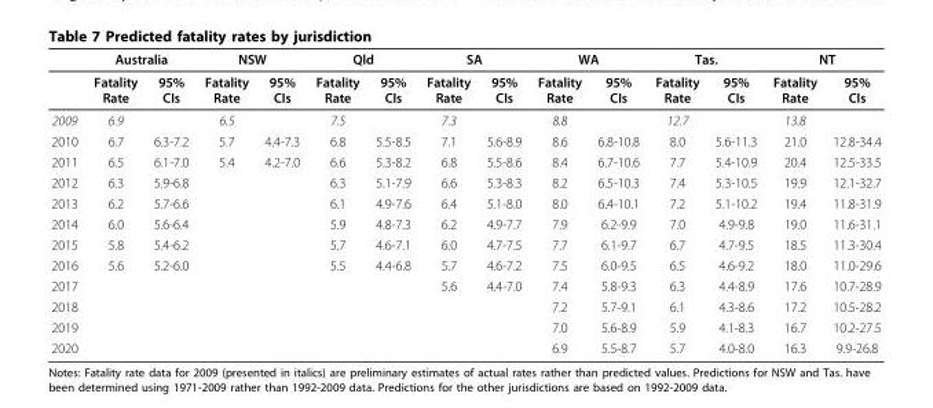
<table><thead><tr><td rowspan="2"></td><td colspan="2">Australia</td><td colspan="2">NSW</td><td colspan="2">Qld</td><td colspan="2">SA</td><td colspan="2">WA</td><td colspan="2">Tas.</td><td colspan="2">NT</td></tr><tr><td>Fatality Rate</td><td>95% CIs</td><td>Fatality Rate</td><td>95% CIs</td><td>Fatality Rate</td><td>95% CIs</td><td>Fatality Rate</td><td>95% CIs</td><td>Fatality Rate</td><td>95% CIs</td><td>Fatality Rate</td><td>95% CIs</td><td>Fatality Rate</td><td>95% CIs</td></tr></thead><tbody><tr><td>2009</td><td>6.9</td><td></td><td>6.5</td><td></td><td>7.5</td><td></td><td>7.3</td><td></td><td>8.8</td><td></td><td>12.7</td><td></td><td>13.8</td><td></td></tr><tr><td>2010</td><td>6.7</td><td>6.3-7.2</td><td>5.7</td><td>4.4-7.3</td><td>6.8</td><td>5.5-8.5</td><td>7.1</td><td>5.6-8.9</td><td>8.6</td><td>6.8-10.8</td><td>8.0</td><td>5.6-11.3</td><td>21.0</td><td>12.8-34.4</td></tr><tr><td>2011</td><td>6.5</td><td>6.1-7.0</td><td>5.4</td><td>4.2-7.0</td><td>6.6</td><td>5.3-8.2</td><td>6.8</td><td>5.5-8.6</td><td>8.4</td><td>6.7-10.6</td><td>7.7</td><td>5.4-10.9</td><td>20.4</td><td>12.5-33.5</td></tr><tr><td>2012</td><td>6.3</td><td>5.9-6.8</td><td></td><td></td><td>6.3</td><td>5.1-7.9</td><td>6.6</td><td>5.3-8.3</td><td>8.2</td><td>6.5-10.3</td><td>7.4</td><td>5.3-10.5</td><td>19.9</td><td>12.1-32.7</td></tr><tr><td>2013</td><td>6.2</td><td>5.7-6.6</td><td></td><td></td><td>6.1</td><td>4.9-7.6</td><td>6.4</td><td>5.1-8.0</td><td>8.0</td><td>6.4-10.1</td><td>7.2</td><td>5.1-10.2</td><td>19.4</td><td>11.8-31.9</td></tr><tr><td>2014</td><td>6.0</td><td>5.6-6.4</td><td></td><td></td><td>5.9</td><td>4.8-7.3</td><td>6.2</td><td>4.9-7.7</td><td>7.9</td><td>6.2-9.9</td><td>7.0</td><td>4.9-9.8</td><td>19.0</td><td>11.6-31.1</td></tr><tr><td>2015</td><td>5.8</td><td>5.4-6.2</td><td></td><td></td><td>5.7</td><td>4.6-7.1</td><td>6.0</td><td>4.7-7.5</td><td>7.7</td><td>6.1-9.7</td><td>6.7</td><td>4.7-9.5</td><td>18.5</td><td>11.3-30.4</td></tr><tr><td>2016</td><td>5.6</td><td>5.2-6.0</td><td></td><td></td><td>5.5</td><td>4.4-6.8</td><td>5.7</td><td>4.6-7.2</td><td>7.5</td><td>6.0-9.5</td><td>6.5</td><td>4.6-9.2</td><td>18.0</td><td>11.0-29.6</td></tr><tr><td>2017</td><td></td><td></td><td></td><td></td><td></td><td></td><td>5.6</td><td>4.4-7.0</td><td>7.4</td><td>5.8-9.3</td><td>6.3</td><td>4.4-8.9</td><td>17.6</td><td>10.7-28.9</td></tr><tr><td>2018</td><td></td><td></td><td></td><td></td><td></td><td></td><td></td><td></td><td>7.2</td><td>5.7-9.1</td><td>6.1</td><td>4.3-8.6</td><td>17.2</td><td>10.5-28.2</td></tr><tr><td>2019</td><td></td><td></td><td></td><td></td><td></td><td></td><td></td><td></td><td>7.0</td><td>5.6-8.9</td><td>5.9</td><td>4.1-8.3</td><td>16.7</td><td>10.2-27.5</td></tr><tr><td>2020</td><td></td><td></td><td></td><td></td><td></td><td></td><td></td><td></td><td>6.9</td><td>5.5-8.7</td><td>5.7</td><td>4.0-8.0</td><td>16.3</td><td>9.9-26.8</td></tr></tbody></table>